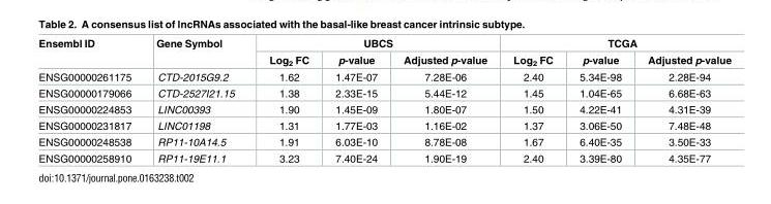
<table><thead><tr><td rowspan="2">Ensembl ID</td><td rowspan="2">Gene Symbol</td><td colspan="3">UBCS</td><td colspan="3">TCGA</td></tr><tr><td>Log<sub>2</sub> FC</td><td>p-value</td><td>Adjusted p-value</td><td>Log<sub>2</sub> FC</td><td>p-value</td><td>Adjusted p-value</td></tr></thead><tbody><tr><td>ENSG00000261175</td><td>CTD-2015G9.2</td><td>1.62</td><td>1.47E-07</td><td>7.28E-06</td><td>2.40</td><td>5.34E-98</td><td>2.28E-94</td></tr><tr><td>ENSG00000179066</td><td>CTD-2527I21.15</td><td>1.38</td><td>2.33E-15</td><td>5.44E-12</td><td>1.45</td><td>1.04E-65</td><td>6.68E-63</td></tr><tr><td>ENSG00000224853</td><td>LINC00393</td><td>1.90</td><td>1.45E-09</td><td>1.80E-07</td><td>1.50</td><td>4.22E-41</td><td>4.31E-39</td></tr><tr><td>ENSG00000231817</td><td>LINC01198</td><td>1.31</td><td>1.77E-03</td><td>1.16E-02</td><td>1.37</td><td>3.06E-50</td><td>7.48E-48</td></tr><tr><td>ENSG00000248538</td><td>RP11-10A14.5</td><td>1.91</td><td>6.03E-10</td><td>8.78E-08</td><td>1.67</td><td>6.40E-35</td><td>3.50E-33</td></tr><tr><td>ENSG00000258910</td><td>RP11-19E11.1</td><td>3.23</td><td>7.40E-24</td><td>1.90E-19</td><td>2.40</td><td>3.39E-80</td><td>4.35E-77</td></tr></tbody></table>